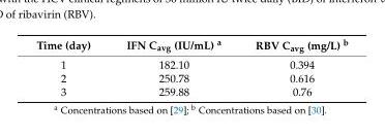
<table><thead><tr><td>Time (day)</td><td>IFN C<sub>avg</sub> (IU/mL) <sup>a</sup></td><td>RBV C<sub>avg</sub> (mg/L) <sup>b</sup></td></tr></thead><tbody><tr><td>1</td><td>182.10</td><td>0.394</td></tr><tr><td>2</td><td>250.78</td><td>0.616</td></tr><tr><td>3</td><td>259.88</td><td>0.76</td></tr></tbody></table>